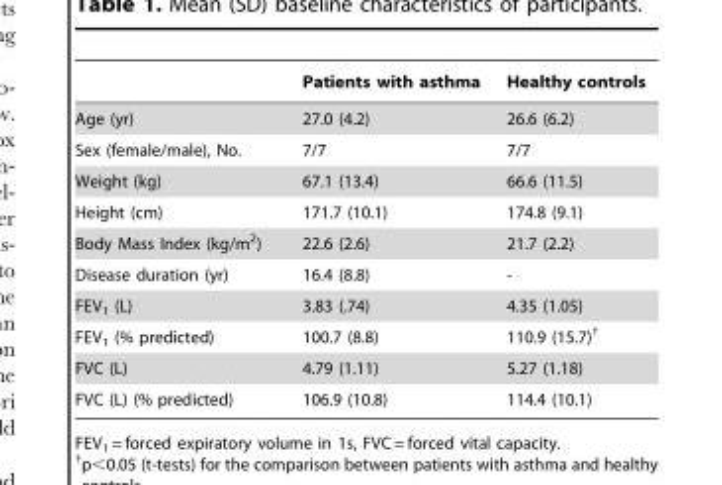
<table><thead><tr><td></td><td>Patients with asthma</td><td>Healthy controls</td></tr></thead><tbody><tr><td>Age (yr)</td><td>27.0 (4.2)</td><td>26.6 (6.2)</td></tr><tr><td>Sex (female/male), No.</td><td>7/7</td><td>7/7</td></tr><tr><td>Weight (kg)</td><td>67.1 (13.4)</td><td>66.6 (11.5)</td></tr><tr><td>Height (cm)</td><td>171.7 (10.1)</td><td>174.8 (9.1)</td></tr><tr><td>Body Mass Index (kg/m<sup>2</sup>)</td><td>22.6 (2.6)</td><td>21.7 (2.2)</td></tr><tr><td>Disease duration (yr)</td><td>16.4 (8.8)</td><td>-</td></tr><tr><td>FEV<sub>1</sub> (L)</td><td>3.83 (.74)</td><td>4.35 (1.05)</td></tr><tr><td>FEV<sub>1</sub> (% predicted)</td><td>100.7 (8.8)</td><td>110.9 (15.7)†</td></tr><tr><td>FVC (L)</td><td>4.79 (1.11)</td><td>5.27 (1.18)</td></tr><tr><td>FVC (L) (% predicted)</td><td>106.9 (10.8)</td><td>114.4 (10.1)</td></tr></tbody></table>